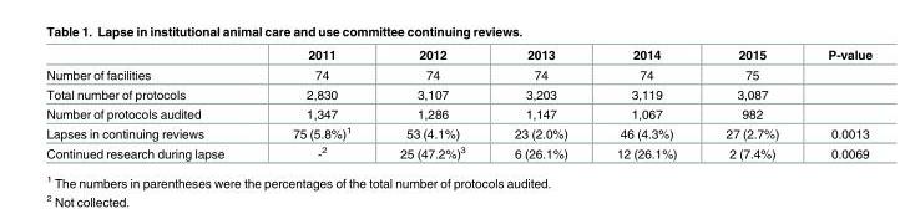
<table><thead><tr><td></td><td>2011</td><td>2012</td><td>2013</td><td>2014</td><td>2015</td><td>P-value</td></tr></thead><tbody><tr><td>Number of facilities</td><td>74</td><td>74</td><td>74</td><td>74</td><td>75</td><td></td></tr><tr><td>Total number of protocols</td><td>2,830</td><td>3,107</td><td>3,203</td><td>3,119</td><td>3,087</td><td></td></tr><tr><td>Number of protocols audited</td><td>1,347</td><td>1,286</td><td>1,147</td><td>1,067</td><td>982</td><td></td></tr><tr><td>Lapses in continuing reviews</td><td>75 (5.8%)<sup>1</sup></td><td>53 (4.1%)</td><td>23 (2.0%)</td><td>46 (4.3%)</td><td>27 (2.7%)</td><td>0.0013</td></tr><tr><td>Continued research during lapse</td><td>-<sup>2</sup></td><td>25 (47.2%)<sup>3</sup></td><td>6 (26.1%)</td><td>12 (26.1%)</td><td>2 (7.4%)</td><td>0.0069</td></tr></tbody></table>